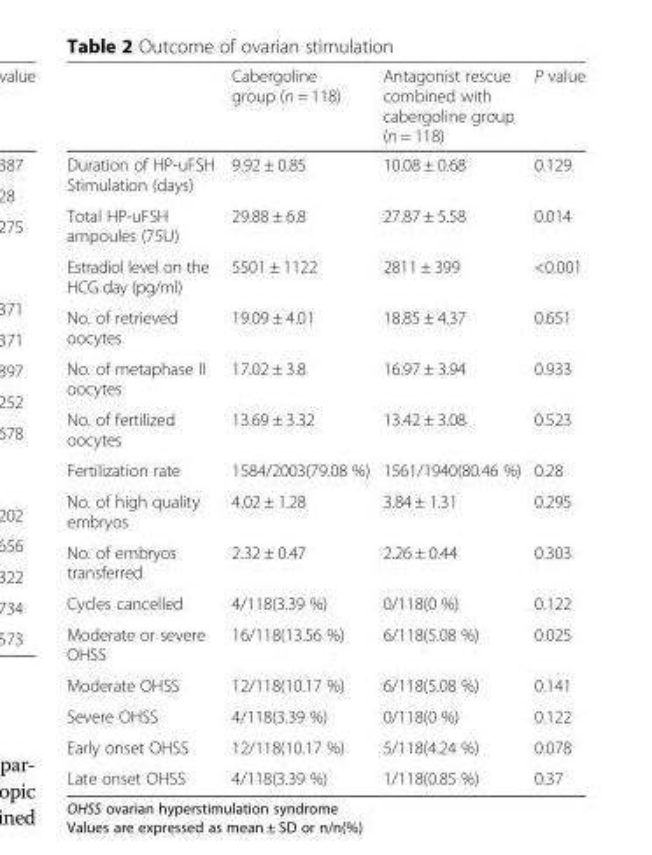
<table><thead><tr><td></td><td>Cabergoline group (n = 118)</td><td>Antagonist rescue combined with cabergoline group (n = 118)</td><td>P value</td></tr></thead><tbody><tr><td>Duration of HP-uFSH Stimulation (days)</td><td>9.92 ± 0.85</td><td>10.08 ± 0.68</td><td>0.129</td></tr><tr><td>Total HP-uFSH ampoules (75U)</td><td>29.88 ± 6.8</td><td>27.87 ± 5.58</td><td>0.014</td></tr><tr><td>Estradiol level on the HCG day (pg/ml)</td><td>5501 ± 1122</td><td>2811 ± 399</td><td>&lt;0.001</td></tr><tr><td>No. of retrieved oocytes</td><td>19.09 ± 4.01</td><td>18.85 ± 4.37</td><td>0.651</td></tr><tr><td>No. of metaphase II oocytes</td><td>17.02 ± 3.8</td><td>16.97 ± 3.94</td><td>0.933</td></tr><tr><td>No. of fertilized oocytes</td><td>13.69 ± 3.32</td><td>13.42 ± 3.08</td><td>0.523</td></tr><tr><td>Fertilization rate</td><td>1584/2003(79.08 %)</td><td>1561/1940(80.46 %)</td><td>0.28</td></tr><tr><td>No. of high quality embryos</td><td>4.02 ± 1.28</td><td>3.84 ± 1.31</td><td>0.295</td></tr><tr><td>No. of embryos transferred</td><td>2.32 ± 0.47</td><td>2.26 ± 0.44</td><td>0.303</td></tr><tr><td>Cycles cancelled</td><td>4/118(3.39 %)</td><td>0/118(0 %)</td><td>0.122</td></tr><tr><td>Moderate or severe OHSS</td><td>16/118(13.56 %)</td><td>6/118(5.08 %)</td><td>0.025</td></tr><tr><td>Moderate OHSS</td><td>12/118(10.17 %)</td><td>6/118(5.08 %)</td><td>0.141</td></tr><tr><td>Severe OHSS</td><td>4/118(3.39 %)</td><td>0/118(0 %)</td><td>0.122</td></tr><tr><td>Early onset OHSS</td><td>12/118(10.17 %)</td><td>5/118(4.24 %)</td><td>0.078</td></tr><tr><td>Late onset OHSS</td><td>4/118(3.39 %)</td><td>1/118(0.85 %)</td><td>0.37</td></tr></tbody></table>